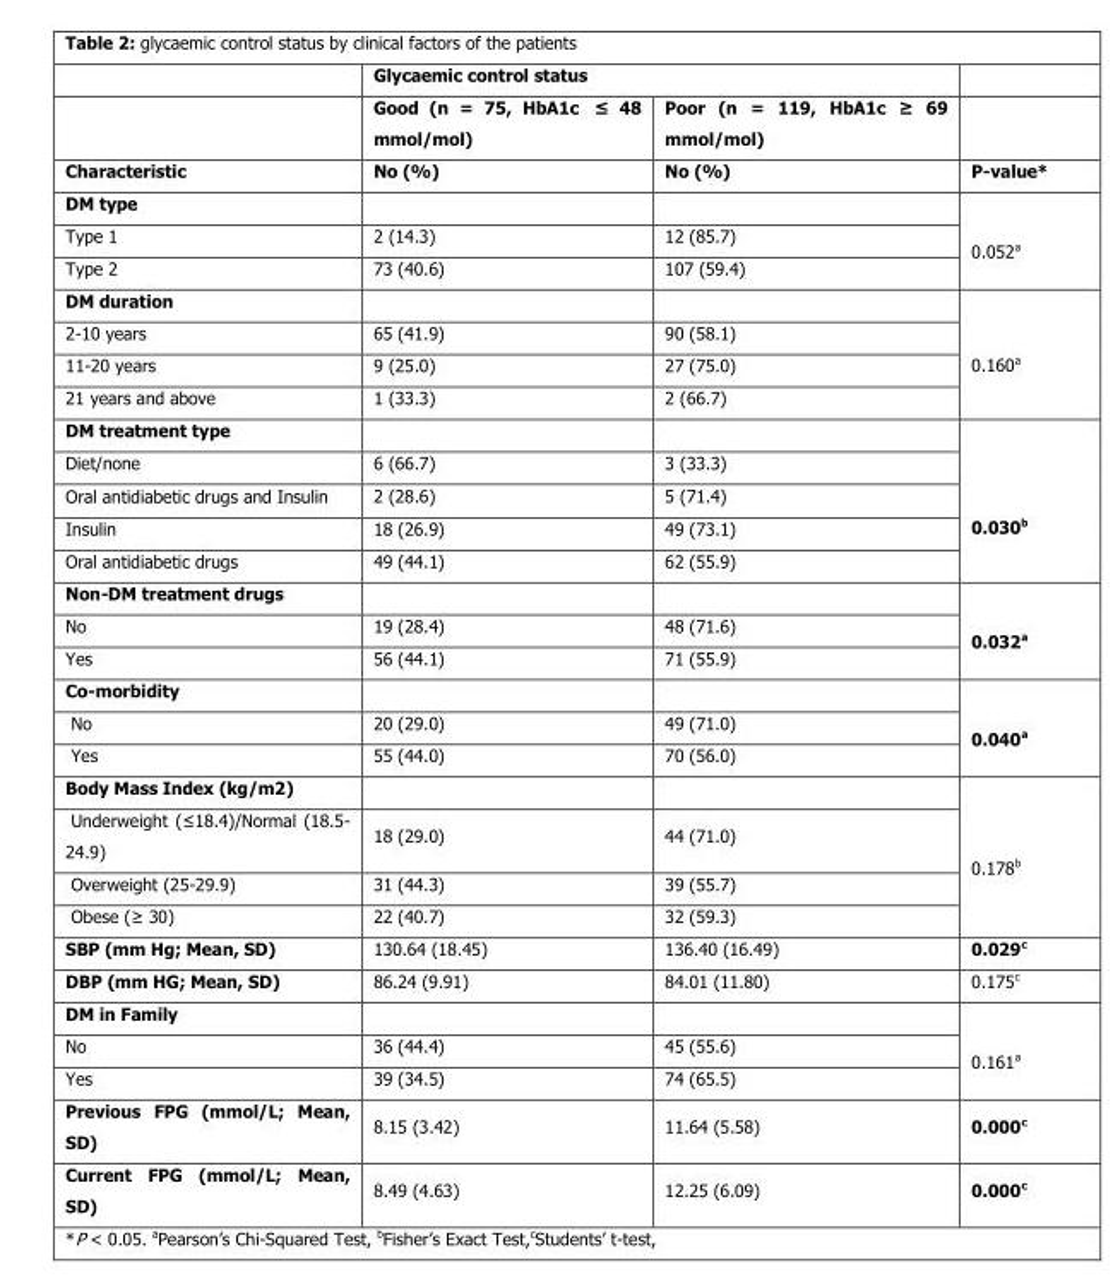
<table><thead><tr><td rowspan="3">Characteristic</td><td colspan="2">Glycaemic control status</td><td rowspan="3">P-value*</td></tr><tr><td rowspan="2">Good (n = 75, HbA1c ≤ 48 mmol/mol) No (%)</td><td rowspan="2">Poor (n = 119, HbA1c ≥ 69 mmol/mol) No (%)</td></tr><tr></tr></thead><tbody><tr><td colspan="3">DM type</td><td rowspan="3">0.052<sup>a</sup></td></tr><tr><td>Type 1</td><td>2 (14.3)</td><td>12 (85.7)</td></tr><tr><td>Type 2</td><td>73 (40.6)</td><td>107 (59.4)</td></tr><tr><td colspan="3">DM duration</td><td rowspan="4">0.160<sup>a</sup></td></tr><tr><td>2-10 years</td><td>65 (41.9)</td><td>90 (58.1)</td></tr><tr><td>11-20 years</td><td>9 (25.0)</td><td>27 (75.0)</td></tr><tr><td>21 years and above</td><td>1 (33.3)</td><td>2 (66.7)</td></tr><tr><td colspan="3">DM treatment type</td><td rowspan="5">0.030<sup>b</sup></td></tr><tr><td>Diet/none</td><td>6 (66.7)</td><td>3 (33.3)</td></tr><tr><td>Oral antidiabetic drugs and Insulin</td><td>2 (28.6)</td><td>5 (71.4)</td></tr><tr><td>Insulin</td><td>18 (26.9)</td><td>49 (73.1)</td></tr><tr><td>Oral antidiabetic drugs</td><td>49 (44.1)</td><td>62 (55.9)</td></tr><tr><td colspan="3">Non-DM treatment drugs</td><td rowspan="3">0.032<sup>a</sup></td></tr><tr><td>No</td><td>19 (28.4)</td><td>48 (71.6)</td></tr><tr><td>Yes</td><td>56 (44.1)</td><td>71 (55.9)</td></tr><tr><td colspan="3">Co-morbidity</td><td rowspan="3">0.040<sup>a</sup></td></tr><tr><td>No</td><td>20 (29.0)</td><td>49 (71.0)</td></tr><tr><td>Yes</td><td>55 (44.0)</td><td>70 (56.0)</td></tr><tr><td colspan="3">Body Mass Index (kg/m2)</td><td rowspan="4">0.178<sup>b</sup></td></tr><tr><td>Underweight (≤18.4)/Normal (18.5- 24.9)</td><td>18 (29.0)</td><td>44 (71.0)</td></tr><tr><td>Overweight (25-29.9)</td><td>31 (44.3)</td><td>39 (55.7)</td></tr><tr><td>Obese (≥ 30)</td><td>22 (40.7)</td><td>32 (59.3)</td></tr><tr><td>SBP (mm Hg; Mean, SD)</td><td>130.64 (18.45)</td><td>136.40 (16.49)</td><td>0.029<sup>c</sup></td></tr><tr><td>DBP (mm HG; Mean, SD)</td><td>86.24 (9.91)</td><td>84.01 (11.80)</td><td>0.175<sup>c</sup></td></tr><tr><td colspan="3">DM in Family</td><td rowspan="3">0.161<sup>a</sup></td></tr><tr><td>No</td><td>36 (44.4)</td><td>45 (55.6)</td></tr><tr><td>Yes</td><td>39 (34.5)</td><td>74 (65.5)</td></tr><tr><td>Previous FPG (mmol/L; Mean, SD)</td><td>8.15 (3.42)</td><td>11.64 (5.58)</td><td>0.000<sup>c</sup></td></tr><tr><td>Current FPG (mmol/L; Mean, SD)</td><td>8.49 (4.63)</td><td>12.25 (6.09)</td><td>0.000<sup>c</sup></td></tr></tbody></table>